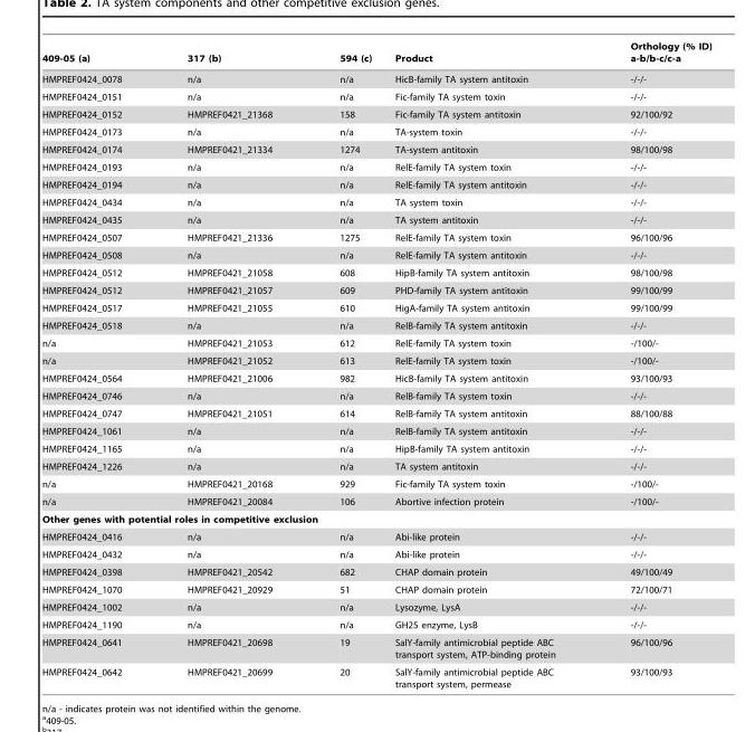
<table><thead><tr><td>409-05 (a)</td><td>317 (b)</td><td>594 (c)</td><td>Product</td><td>Orthology (% ID) a-b/b-c/c-a</td></tr></thead><tbody><tr><td>HMPREF0424_0078</td><td>n/a</td><td>n/a</td><td>HicB-family TA system antitoxin</td><td>-/-/-</td></tr><tr><td>HMPREF0424_0151</td><td>n/a</td><td>n/a</td><td>Fic-family TA system toxin</td><td>-/-/-</td></tr><tr><td>HMPREF0424_0152</td><td>HMPREF0421_21368</td><td>158</td><td>Fic-family TA system antitoxin</td><td>92/100/92</td></tr><tr><td>HMPREF0424_0173</td><td>n/a</td><td>n/a</td><td>TA-system toxin</td><td>-/-/-</td></tr><tr><td>HMPREF0424_0174</td><td>HMPREF0421_21334</td><td>1274</td><td>TA-system antitoxin</td><td>98/100/98</td></tr><tr><td>HMPREF0424_0193</td><td>n/a</td><td>n/a</td><td>RelE-family TA system toxin</td><td>-/-/-</td></tr><tr><td>HMPREF0424_0194</td><td>n/a</td><td>n/a</td><td>RelE-family TA system antitoxin</td><td>-/-/-</td></tr><tr><td>HMPREF0424_0434</td><td>n/a</td><td>n/a</td><td>TA system toxin</td><td>-/-/-</td></tr><tr><td>HMPREF0424_0435</td><td>n/a</td><td>n/a</td><td>TA system antitoxin</td><td>-/-/-</td></tr><tr><td>HMPREF0424_0507</td><td>HMPREF0421_21336</td><td>1275</td><td>RelE-family TA system toxin</td><td>96/100/96</td></tr><tr><td>HMPREF0424_0508</td><td>n/a</td><td>n/a</td><td>RelE-family TA system antitoxin</td><td>-/-/-</td></tr><tr><td>HMPREF0424_0512</td><td>HMPREF0421_21058</td><td>608</td><td>HipB-family TA system antitoxin</td><td>98/100/98</td></tr><tr><td>HMPREF0424_0512</td><td>HMPREF0421_21057</td><td>609</td><td>PHD-family TA system antitoxin</td><td>99/100/99</td></tr><tr><td>HMPREF0424_0517</td><td>HMPREF0421_21055</td><td>610</td><td>HigA-family TA system antitoxin</td><td>99/100/99</td></tr><tr><td>HMPREF0424_0518</td><td>n/a</td><td>n/a</td><td>RelB-family TA system antitoxin</td><td>-/-/-</td></tr><tr><td>n/a</td><td>HMPREF0421_21053</td><td>612</td><td>RelE-family TA system toxin</td><td>-/100/-</td></tr><tr><td>n/a</td><td>HMPREF0421_21052</td><td>613</td><td>RelE-family TA system toxin</td><td>-/100/-</td></tr><tr><td>HMPREF0424_0564</td><td>HMPREF0421_21006</td><td>982</td><td>HicB-family TA system antitoxin</td><td>93/100/93</td></tr><tr><td>HMPREF0424_0746</td><td>n/a</td><td>n/a</td><td>RelB-family TA system toxin</td><td>-/-/-</td></tr><tr><td>HMPREF0424_0747</td><td>HMPREF0421_21051</td><td>614</td><td>RelB-family TA system antitoxin</td><td>88/100/88</td></tr><tr><td>HMPREF0424_1061</td><td>n/a</td><td>n/a</td><td>RelB-family TA system antitoxin</td><td>-/-/-</td></tr><tr><td>HMPREF0424_1165</td><td>n/a</td><td>n/a</td><td>HipB-family TA system antitoxin</td><td>-/-/-</td></tr><tr><td>HMPREF0424_1226</td><td>n/a</td><td>n/a</td><td>TA system antitoxin</td><td>-/-/-</td></tr><tr><td>n/a</td><td>HMPREF0421_20168</td><td>929</td><td>Fic-family TA system toxin</td><td>-/100/-</td></tr><tr><td>n/a</td><td>HMPREF0421_20084</td><td>106</td><td>Abortive infection protein</td><td>-/100/-</td></tr><tr><td colspan="5">Other genes with potential roles in competitive exclusion</td></tr><tr><td>HMPREF0424_0416</td><td>n/a</td><td>n/a</td><td>Abi-like protein</td><td>-/-/-</td></tr><tr><td>HMPREF0424_0432</td><td>n/a</td><td>n/a</td><td>Abi-like protein</td><td>-/-/-</td></tr><tr><td>HMPREF0424_0398</td><td>HMPREF0421_20542</td><td>682</td><td>CHAP domain protein</td><td>49/100/49</td></tr><tr><td>HMPREF0424_1070</td><td>HMPREF0421_20929</td><td>51</td><td>CHAP domain protein</td><td>72/100/71</td></tr><tr><td>HMPREF0424_1002</td><td>n/a</td><td>n/a</td><td>Lysozyme, LysA</td><td>-/-/-</td></tr><tr><td>HMPREF0424_1190</td><td>n/a</td><td>n/a</td><td>GH25 enzyme, LysB</td><td>-/-/-</td></tr><tr><td>HMPREF0424_0641</td><td>HMPREF0421_20698</td><td>19</td><td>SalY-family antimicrobial peptide ABC transport system, ATP-binding protein</td><td>96/100/96</td></tr><tr><td>HMPREF0424_0642</td><td>HMPREF0421_20699</td><td>20</td><td>SalY-family antimicrobial peptide ABC transport system, permease</td><td>93/100/93</td></tr></tbody></table>